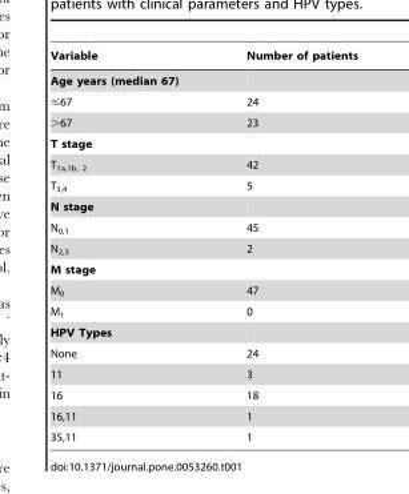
<table><thead><tr><td>Variable</td><td>Number of patients</td></tr></thead><tbody><tr><td colspan="2">Age years (median 67)</td></tr><tr><td>≤67</td><td>24</td></tr><tr><td>&gt;67</td><td>23</td></tr><tr><td colspan="2">T stage</td></tr><tr><td>T<sub>1a,1b, 2</sub></td><td>42</td></tr><tr><td>T<sub>3,4</sub></td><td>5</td></tr><tr><td colspan="2">N stage</td></tr><tr><td>N<sub>0,1</sub></td><td>45</td></tr><tr><td>N<sub>2,3</sub></td><td>2</td></tr><tr><td colspan="2">M stage</td></tr><tr><td>M<sub>0</sub></td><td>47</td></tr><tr><td>M<sub>1</sub></td><td>0</td></tr><tr><td colspan="2">HPV Types</td></tr><tr><td>None</td><td>24</td></tr><tr><td>11</td><td>3</td></tr><tr><td>16</td><td>18</td></tr><tr><td>16,11</td><td>1</td></tr><tr><td>35,11</td><td>1</td></tr></tbody></table>